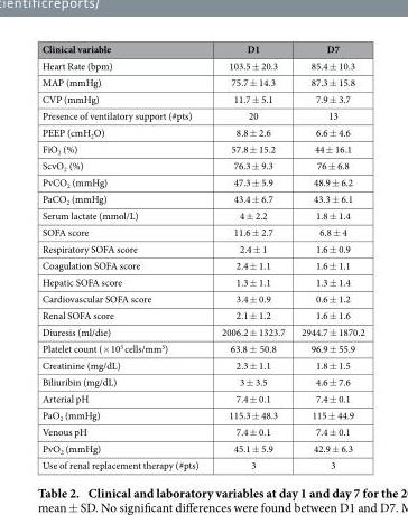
<table><thead><tr><td>Clinical variable</td><td>D1</td><td>D7</td></tr></thead><tbody><tr><td>Heart Rate (bpm)</td><td>103.5 ± 20.3</td><td>85.4 ± 10.3</td></tr><tr><td>MAP (mmHg)</td><td>75.7 ± 14.3</td><td>87.3 ± 15.8</td></tr><tr><td>CVP (mmHg)</td><td>11.7 ± 5.1</td><td>7.9 ± 3.7</td></tr><tr><td>Presence of ventilatory support (#pts)</td><td>20</td><td>13</td></tr><tr><td>PEEP (cmH<sub>2</sub>O)</td><td>8.8 ± 2.6</td><td>6.6 ± 4.6</td></tr><tr><td>FiO<sub>2</sub> (%)</td><td>57.8 ± 15.2</td><td>44 ± 16.1</td></tr><tr><td>ScvO<sub>2</sub> (%)</td><td>76.3 ± 9.3</td><td>76 ± 6.8</td></tr><tr><td>PvCO<sub>2</sub> (mmHg)</td><td>47.3 ± 5.9</td><td>48.9 ± 6.2</td></tr><tr><td>PaCO<sub>2</sub> (mmHg)</td><td>43.4 ± 6.7</td><td>43.3 ± 6.1</td></tr><tr><td>Serum lactate (mmol/L)</td><td>4 ± 2.2</td><td>1.8 ± 1.4</td></tr><tr><td>SOFA score</td><td>11.6 ± 2.7</td><td>6.8 ± 4</td></tr><tr><td>Respiratory SOFA score</td><td>2.4 ± 1</td><td>1.6 ± 0.9</td></tr><tr><td>Coagulation SOFA score</td><td>2.4 ± 1.1</td><td>1.6 ± 1.1</td></tr><tr><td>Hepatic SOFA score</td><td>1.3 ± 1.1</td><td>1.3 ± 1.4</td></tr><tr><td>Cardiovascular SOFA score</td><td>3.4 ± 0.9</td><td>0.6 ± 1.2</td></tr><tr><td>Renal SOFA score</td><td>2.1 ± 1.2</td><td>1.6 ± 1.6</td></tr><tr><td>Diuresis (ml/die)</td><td>2006.2 ± 1323.7</td><td>2944.7 ± 1870.2</td></tr><tr><td>Platelet count (× 10<sup>3</sup> cells/mm<sup>3</sup>)</td><td>63.8 ± 50.8</td><td>96.9 ± 55.9</td></tr><tr><td>Creatinine (mg/dL)</td><td>2.3 ± 1.1</td><td>1.8 ± 1.5</td></tr><tr><td>Biliuribin (mg/dL)</td><td>3 ± 3.5</td><td>4.6 ± 7.6</td></tr><tr><td>Arterial pH</td><td>7.4 ± 0.1</td><td>7.4 ± 0.1</td></tr><tr><td>PaO<sub>2</sub> (mmHg)</td><td>115.3 ± 48.3</td><td>115 ± 44.9</td></tr><tr><td>Venous pH</td><td>7.4 ± 0.1</td><td>7.4 ± 0.1</td></tr><tr><td>PvO<sub>2</sub> (mmHg)</td><td>45.1 ± 5.9</td><td>42.9 ± 6.3</td></tr><tr><td>Use of renal replacement therapy (#pts)</td><td>3</td><td>3</td></tr></tbody></table>